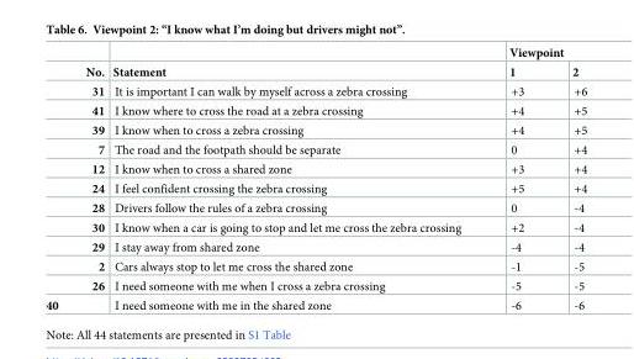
<table><thead><tr><td rowspan="2">No.</td><td rowspan="2">Statement</td><td colspan="2">Viewpoint</td></tr><tr><td>1</td><td>2</td></tr></thead><tbody><tr><td>31</td><td>It is important I can walk by myself across a zebra crossing</td><td>+3</td><td>+6</td></tr><tr><td>41</td><td>I know where to cross the road at a zebra crossing</td><td>+4</td><td>+5</td></tr><tr><td>39</td><td>I know when to cross a zebra crossing</td><td>+4</td><td>+5</td></tr><tr><td>7</td><td>The road and the footpath should be separate</td><td>0</td><td>+4</td></tr><tr><td>12</td><td>I know when to cross a shared zone</td><td>+3</td><td>+4</td></tr><tr><td>24</td><td>I feel confident crossing the zebra crossing</td><td>+5</td><td>+4</td></tr><tr><td>28</td><td>Drivers follow the rules of a zebra crossing</td><td>0</td><td>-4</td></tr><tr><td>30</td><td>I know when a car is going to stop and let me cross the zebra crossing</td><td>+2</td><td>-4</td></tr><tr><td>29</td><td>I stay away from shared zone</td><td>-4</td><td>-4</td></tr><tr><td>2</td><td>Cars always stop to let me cross the shared zone</td><td>-1</td><td>-5</td></tr><tr><td>26</td><td>I need someone with me when I cross a zebra crossing</td><td>-5</td><td>-5</td></tr><tr><td>40</td><td>I need someone with me in the shared zone</td><td>-6</td><td>-6</td></tr></tbody></table>